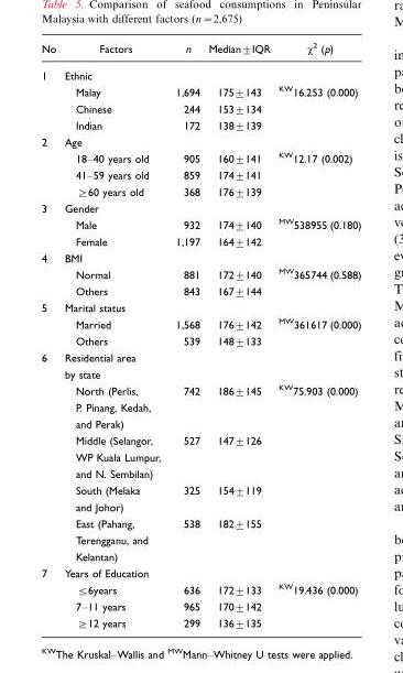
<table><thead><tr><td>No</td><td>Factors</td><td>n</td><td>Median±IQR</td><td>χ<sup>2</sup> (p)</td></tr></thead><tbody><tr><td rowspan="4">1</td><td>Ethnic</td><td></td><td></td><td></td></tr><tr><td>Malay</td><td>1,694</td><td>175±143</td><td><sup>KW</sup>16.253 (0.000)</td></tr><tr><td>Chinese</td><td>244</td><td>153±134</td><td></td></tr><tr><td>Indian</td><td>172</td><td>138±139</td><td></td></tr><tr><td rowspan="4">2</td><td>Age</td><td></td><td></td><td></td></tr><tr><td>18–40 years old</td><td>905</td><td>160±141</td><td><sup>KW</sup>12.17 (0.002)</td></tr><tr><td>41–59 years old</td><td>859</td><td>174±141</td><td></td></tr><tr><td>≥60 years old</td><td>368</td><td>176±139</td><td></td></tr><tr><td rowspan="3">3</td><td>Gender</td><td></td><td></td><td></td></tr><tr><td>Male</td><td>932</td><td>174±140</td><td><sup>MW</sup>538955 (0.180)</td></tr><tr><td>Female</td><td>1,197</td><td>164±142</td><td></td></tr><tr><td rowspan="3">4</td><td>BMI</td><td></td><td></td><td></td></tr><tr><td>Normal</td><td>881</td><td>172±140</td><td><sup>MW</sup>365744 (0.588)</td></tr><tr><td>Others</td><td>843</td><td>167±144</td><td></td></tr><tr><td rowspan="3">5</td><td>Marital status</td><td></td><td></td><td></td></tr><tr><td>Married</td><td>1,568</td><td>176±142</td><td><sup>MW</sup>361617 (0.000)</td></tr><tr><td>Others</td><td>539</td><td>148±133</td><td></td></tr><tr><td rowspan="5">6</td><td>Residential area by state</td><td></td><td></td><td></td></tr><tr><td>North (Perlis, P. Pinang, Kedah, and Perak)</td><td>742</td><td>186±145</td><td><sup>KW</sup>75.903 (0.000)</td></tr><tr><td>Middle (Selangor, WP Kuala Lumpur, and N. Sembilan)</td><td>527</td><td>147±126</td><td></td></tr><tr><td>South (Melaka and Johor)</td><td>325</td><td>154±119</td><td></td></tr><tr><td>East (Pahang, Terengganu, and Kelantan)</td><td>538</td><td>182±155</td><td></td></tr><tr><td rowspan="4">7</td><td>Years of Education</td><td></td><td></td><td></td></tr><tr><td>≤6years</td><td>636</td><td>172±133</td><td><sup>KW</sup>19.436 (0.000)</td></tr><tr><td>7–11 years</td><td>965</td><td>170±142</td><td></td></tr><tr><td>≥12 years</td><td>299</td><td>136±135</td><td></td></tr></tbody></table>